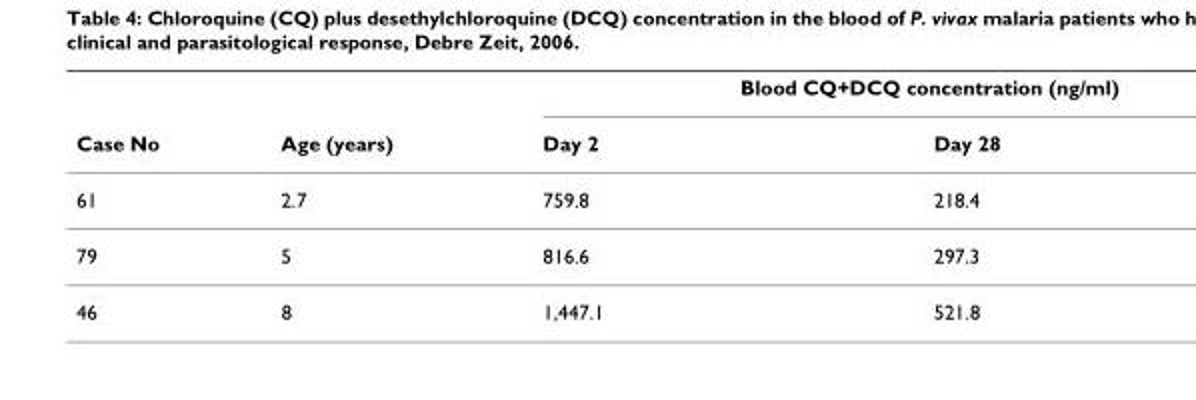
<table><thead><tr><td rowspan="2">Case No</td><td rowspan="2">Age (years)</td><td colspan="2">Blood CQ+DCQ concentration (ng/ml)</td></tr><tr><td>Day 2</td><td>Day 28</td></tr></thead><tbody><tr><td>61</td><td>2.7</td><td>759.8</td><td>218.4</td></tr><tr><td>79</td><td>5</td><td>816.6</td><td>297.3</td></tr><tr><td>46</td><td>8</td><td>1,447.1</td><td>521.8</td></tr></tbody></table>